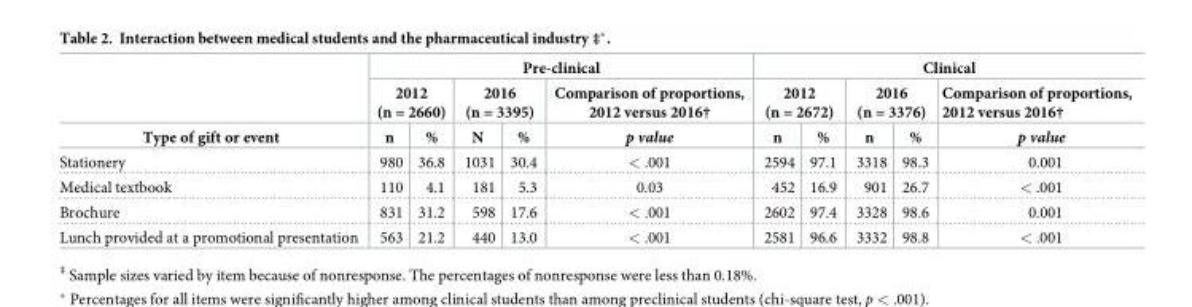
<table><thead><tr><td rowspan="3">Type of gift or event</td><td colspan="5">Pre-clinical</td><td colspan="5">Clinical</td></tr><tr><td colspan="2">2012 (n = 2660)</td><td colspan="2">2016 (n = 3395)</td><td rowspan="2">Comparison of proportions, 2012 versus 2016† p value</td><td colspan="2">2012 (n = 2672)</td><td colspan="2">2016 (n = 3376)</td><td rowspan="2">Comparison of proportions, 2012 versus 2016† p value</td></tr><tr><td>n</td><td>%</td><td>N</td><td>%</td><td>n</td><td>%</td><td>n</td><td>%</td></tr></thead><tbody><tr><td>Stationery</td><td>980</td><td>36.8</td><td>1031</td><td>30.4</td><td>&lt; .001</td><td>2594</td><td>97.1</td><td>3318</td><td>98.3</td><td>0.001</td></tr><tr><td>Medical textbook</td><td>110</td><td>4.1</td><td>181</td><td>5.3</td><td>0.03</td><td>452</td><td>16.9</td><td>901</td><td>26.7</td><td>&lt; .001</td></tr><tr><td>Brochure</td><td>831</td><td>31.2</td><td>598</td><td>17.6</td><td>&lt; .001</td><td>2602</td><td>97.4</td><td>3328</td><td>98.6</td><td>0.001</td></tr><tr><td>Lunch provided at a promotional presentation</td><td>563</td><td>21.2</td><td>440</td><td>13.0</td><td>&lt; .001</td><td>2581</td><td>96.6</td><td>3332</td><td>98.8</td><td>&lt; .001</td></tr></tbody></table>